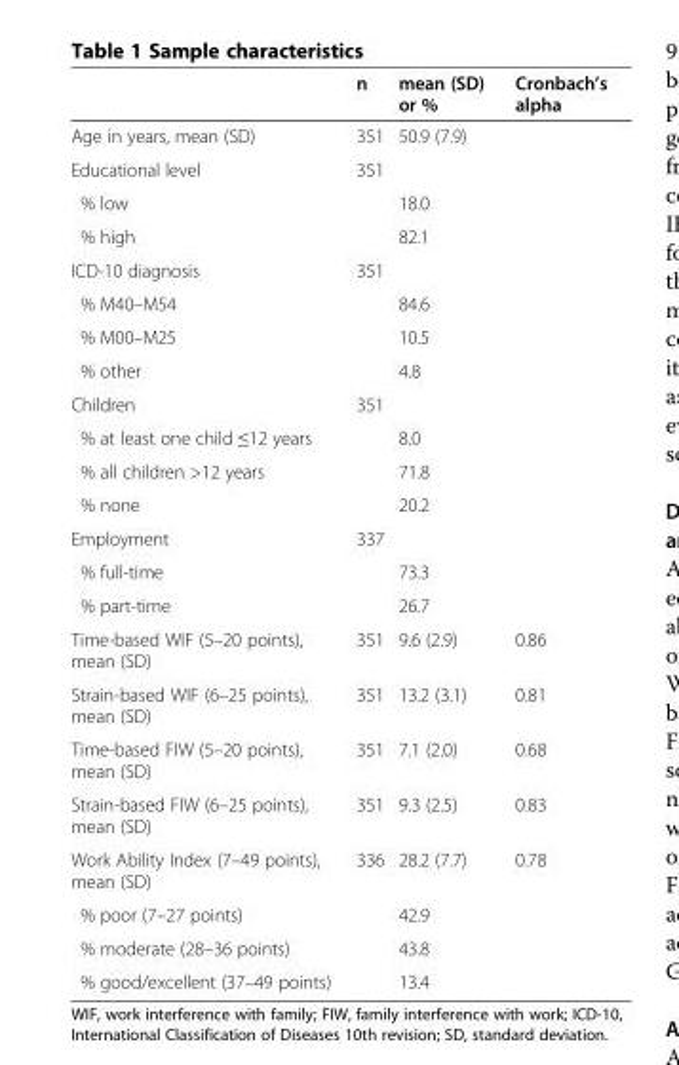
<table><thead><tr><td></td><td>n</td><td>mean (SD) or %</td><td>Cronbach’s alpha</td></tr></thead><tbody><tr><td>Age in years, mean (SD)</td><td>351</td><td>50.9 (7.9)</td><td></td></tr><tr><td>Educational level</td><td>351</td><td></td><td></td></tr><tr><td>% low</td><td></td><td>18.0</td><td></td></tr><tr><td>% high</td><td></td><td>82.1</td><td></td></tr><tr><td>ICD-10 diagnosis</td><td>351</td><td></td><td></td></tr><tr><td>% M40–M54</td><td></td><td>84.6</td><td></td></tr><tr><td>% M00–M25</td><td></td><td>10.5</td><td></td></tr><tr><td>% other</td><td></td><td>4.8</td><td></td></tr><tr><td>Children</td><td>351</td><td></td><td></td></tr><tr><td>% at least one child ≤12 years</td><td></td><td>8.0</td><td></td></tr><tr><td>% all children &gt;12 years</td><td></td><td>71.8</td><td></td></tr><tr><td>% none</td><td></td><td>20.2</td><td></td></tr><tr><td>Employment</td><td>337</td><td></td><td></td></tr><tr><td>% full-time</td><td></td><td>73.3</td><td></td></tr><tr><td>% part-time</td><td></td><td>26.7</td><td></td></tr><tr><td>Time-based WIF (5–20 points), mean (SD)</td><td>351</td><td>9.6 (2.9)</td><td>0.86</td></tr><tr><td>Strain-based WIF (6–25 points), mean (SD)</td><td>351</td><td>13.2 (3.1)</td><td>0.81</td></tr><tr><td>Time-based FIW (5–20 points), mean (SD)</td><td>351</td><td>7.1 (2.0)</td><td>0.68</td></tr><tr><td>Strain-based FIW (6–25 points), mean (SD)</td><td>351</td><td>9.3 (2.5)</td><td>0.83</td></tr><tr><td>Work Ability Index (7–49 points), mean (SD)</td><td>336</td><td>28.2 (7.7)</td><td>0.78</td></tr><tr><td>% poor (7–27 points)</td><td></td><td>42.9</td><td></td></tr><tr><td>% moderate (28–36 points)</td><td></td><td>43.8</td><td></td></tr><tr><td>% good/excellent (37–49 points)</td><td></td><td>13.4</td><td></td></tr></tbody></table>